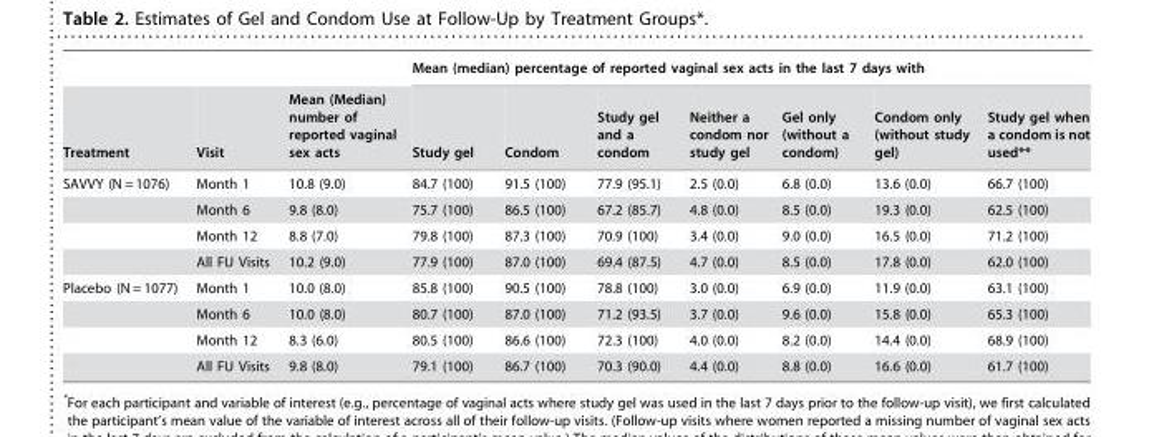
<table><thead><tr><td rowspan="2">Treatment</td><td rowspan="2">Visit</td><td rowspan="2">Mean (Median) number of reported vaginal sex acts</td><td colspan="7">Mean (median) percentage of reported vaginal sex acts in the last 7 days with</td></tr><tr><td>Study gel</td><td>Condom</td><td>Study gel and a condom</td><td>Neither a condom nor study gel</td><td>Gel only (without a condom)</td><td>Condom only (without study gel)</td><td>Study gel when a condom is not used**</td></tr></thead><tbody><tr><td rowspan="4">SAVVY (N = 1076)</td><td>Month 1</td><td>10.8 (9.0)</td><td>84.7 (100)</td><td>91.5 (100)</td><td>77.9 (95.1)</td><td>2.5 (0.0)</td><td>6.8 (0.0)</td><td>13.6 (0.0)</td><td>66.7 (100)</td></tr><tr><td>Month 6</td><td>9.8 (8.0)</td><td>75.7 (100)</td><td>86.5 (100)</td><td>67.2 (85.7)</td><td>4.8 (0.0)</td><td>8.5 (0.0)</td><td>19.3 (0.0)</td><td>62.5 (100)</td></tr><tr><td>Month 12</td><td>8.8 (7.0)</td><td>79.8 (100)</td><td>87.3 (100)</td><td>70.9 (100)</td><td>3.4 (0.0)</td><td>9.0 (0.0)</td><td>16.5 (0.0)</td><td>71.2 (100)</td></tr><tr><td>All FU Visits</td><td>10.2 (9.0)</td><td>77.9 (100)</td><td>87.0 (100)</td><td>69.4 (87.5)</td><td>4.7 (0.0)</td><td>8.5 (0.0)</td><td>17.8 (0.0)</td><td>62.0 (100)</td></tr><tr><td rowspan="4">Placebo (N = 1077)</td><td>Month 1</td><td>10.0 (8.0)</td><td>85.8 (100)</td><td>90.5 (100)</td><td>78.8 (100)</td><td>3.0 (0.0)</td><td>6.9 (0.0)</td><td>11.9 (0.0)</td><td>63.1 (100)</td></tr><tr><td>Month 6</td><td>10.0 (8.0)</td><td>80.7 (100)</td><td>87.0 (100)</td><td>71.2 (93.5)</td><td>3.7 (0.0)</td><td>9.6 (0.0)</td><td>15.8 (0.0)</td><td>65.3 (100)</td></tr><tr><td>Month 12</td><td>8.3 (6.0)</td><td>80.5 (100)</td><td>86.6 (100)</td><td>72.3 (100)</td><td>4.0 (0.0)</td><td>8.2 (0.0)</td><td>14.4 (0.0)</td><td>68.9 (100)</td></tr><tr><td>All FU Visits</td><td>9.8 (8.0)</td><td>79.1 (100)</td><td>86.7 (100)</td><td>70.3 (90.0)</td><td>4.4 (0.0)</td><td>8.8 (0.0)</td><td>16.6 (0.0)</td><td>61.7 (100)</td></tr></tbody></table>